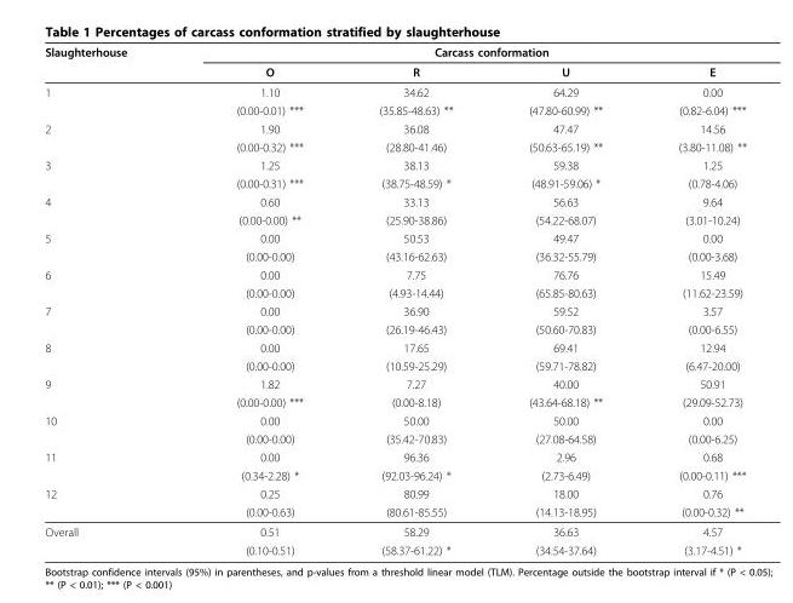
<table><thead><tr><td rowspan="2">Slaughterhouse</td><td colspan="4">Carcass conformation</td></tr><tr><td>O</td><td>R</td><td>U</td><td>E</td></tr></thead><tbody><tr><td rowspan="2">1</td><td>1.10</td><td>34.62</td><td>64.29</td><td>0.00</td></tr><tr><td>(0.00-0.01) ***</td><td>(35.85-48.63) **</td><td>(47.80-60.99) **</td><td>(0.82-6.04) ***</td></tr><tr><td rowspan="2">2</td><td>1.90</td><td>36.08</td><td>47.47</td><td>14.56</td></tr><tr><td>(0.00-0.32) ***</td><td>(28.80-41.46)</td><td>(50.63-65.19) **</td><td>(3.80-11.08) **</td></tr><tr><td rowspan="2">3</td><td>1.25</td><td>38.13</td><td>59.38</td><td>1.25</td></tr><tr><td>(0.00-0.31) ***</td><td>(38.75-48.59) *</td><td>(48.91-59.06) *</td><td>(0.78-4.06)</td></tr><tr><td rowspan="2">4</td><td>0.60</td><td>33.13</td><td>56.63</td><td>9.64</td></tr><tr><td>(0.00-0.00) **</td><td>(25.90-38.86)</td><td>(54.22-68.07)</td><td>(3.01-10.24)</td></tr><tr><td rowspan="2">5</td><td>0.00</td><td>50.53</td><td>49.47</td><td>0.00</td></tr><tr><td>(0.00-0.00)</td><td>(43.16-62.63)</td><td>(36.32-55.79)</td><td>(0.00-3.68)</td></tr><tr><td rowspan="2">6</td><td>0.00</td><td>7.75</td><td>76.76</td><td>15.49</td></tr><tr><td>(0.00-0.00)</td><td>(4.93-14.44)</td><td>(65.85-80.63)</td><td>(11.62-23.59)</td></tr><tr><td rowspan="2">7</td><td>0.00</td><td>36.90</td><td>59.52</td><td>3.57</td></tr><tr><td>(0.00-0.00)</td><td>(26.19-46.43)</td><td>(50.60-70.83)</td><td>(0.00-6.55)</td></tr><tr><td rowspan="2">8</td><td>0.00</td><td>17.65</td><td>69.41</td><td>12.94</td></tr><tr><td>(0.00-0.00)</td><td>(10.59-25.29)</td><td>(59.71-78.82)</td><td>(6.47-20.00)</td></tr><tr><td rowspan="2">9</td><td>1.82</td><td>7.27</td><td>40.00</td><td>50.91</td></tr><tr><td>(0.00-0.00) ***</td><td>(0.00-8.18)</td><td>(43.64-68.18) **</td><td>(29.09-52.73)</td></tr><tr><td rowspan="2">10</td><td>0.00</td><td>50.00</td><td>50.00</td><td>0.00</td></tr><tr><td>(0.00-0.00)</td><td>(35.42-70.83)</td><td>(27.08-64.58)</td><td>(0.00-6.25)</td></tr><tr><td rowspan="2">11</td><td>0.00</td><td>96.36</td><td>2.96</td><td>0.68</td></tr><tr><td>(0.34-2.28) *</td><td>(92.03-96.24) *</td><td>(2.73-6.49)</td><td>(0.00-0.11) ***</td></tr><tr><td rowspan="2">12</td><td>0.25</td><td>80.99</td><td>18.00</td><td>0.76</td></tr><tr><td>(0.00-0.63)</td><td>(80.61-85.55)</td><td>(14.13-18.95)</td><td>(0.00-0.32) **</td></tr><tr><td rowspan="2">Overall</td><td>0.51</td><td>58.29</td><td>36.63</td><td>4.57</td></tr><tr><td>(0.10-0.51)</td><td>(58.37-61.22) *</td><td>(34.54-37.64)</td><td>(3.17-4.51) *</td></tr></tbody></table>